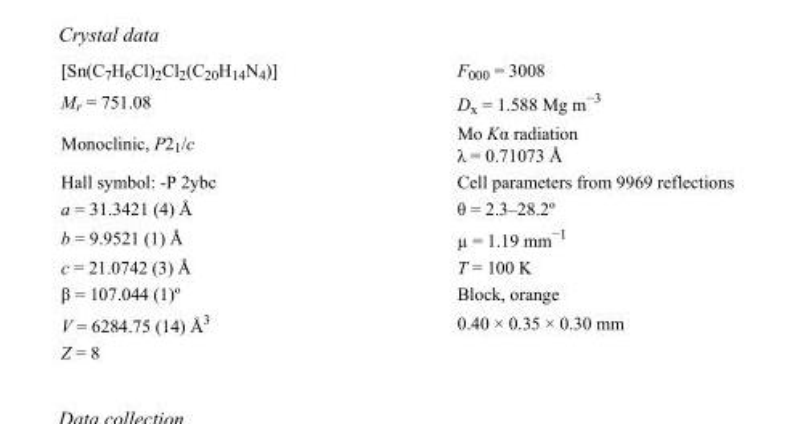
<table><tbody><tr><td>[Sn(C<sub>7</sub>H<sub>6</sub>Cl)<sub>2</sub>Cl<sub>2</sub>(C<sub>20</sub>H<sub>14</sub>N<sub>4</sub>)]</td><td>F000 = 3008</td></tr><tr><td>M<sub>r</sub> = 751.08</td><td>D<sub>x</sub> = 1.588 Mg m<sup>−3</sup></td></tr><tr><td>Monoclinic, P2<sub>1</sub>/c</td><td>Mo Kα radiation λ = 0.71073 Å</td></tr><tr><td>Hall symbol: -P 2ybc</td><td>Cell parameters from 9969 reflections</td></tr><tr><td>a = 31.3421 (4) Å</td><td>θ = 2.3–28.2º</td></tr><tr><td>b = 9.9521 (1) Å</td><td>µ = 1.19 mm<sup>−1</sup></td></tr><tr><td>c = 21.0742 (3) Å</td><td>T = 100 K</td></tr><tr><td>β = 107.044 (1)º</td><td>Block, orange</td></tr><tr><td>V = 6284.75 (14) Å<sup>3</sup></td><td>0.40 × 0.35 × 0.30 mm</td></tr><tr><td>Z = 8</td><td></td></tr></tbody></table>